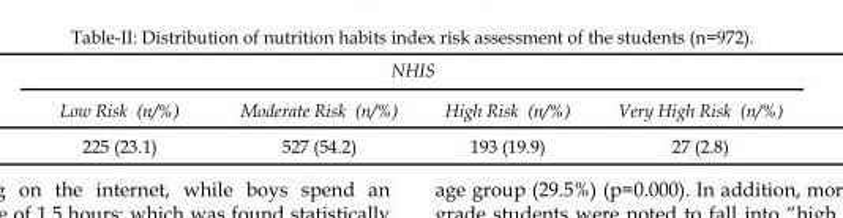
<table><thead><tr><td colspan="4">NHIS</td></tr><tr><td>Low Risk (n/%)</td><td>Moderate Risk (n/%)</td><td>High Risk (n/%)</td><td>Very High Risk (n/%)</td></tr></thead><tbody><tr><td>225 (23.1)</td><td>527 (54.2)</td><td>193 (19.9)</td><td>27 (2.8)</td></tr></tbody></table>